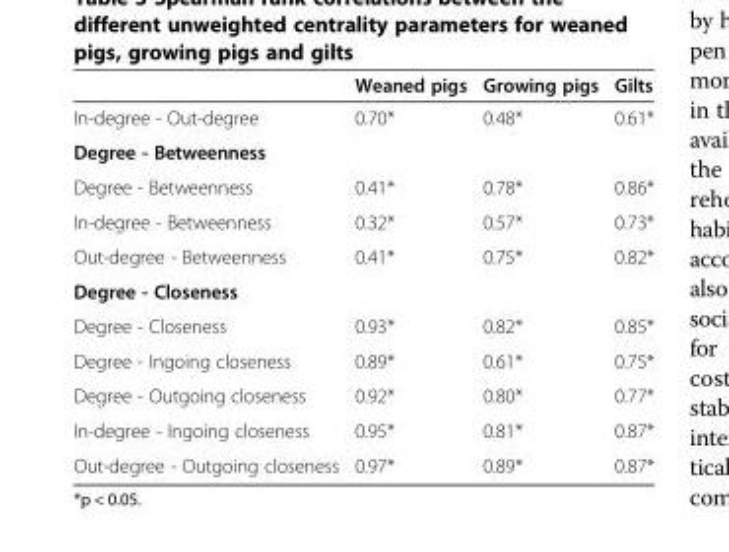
<table><thead><tr><td></td><td>Weaned pigs</td><td>Growing pigs</td><td>Gilts</td></tr></thead><tbody><tr><td>In-degree - Out-degree</td><td>0.70*</td><td>0.48*</td><td>0.61*</td></tr><tr><td colspan="4">Degree - Betweenness</td></tr><tr><td>Degree - Betweenness</td><td>0.41*</td><td>0.78*</td><td>0.86*</td></tr><tr><td>In-degree - Betweenness</td><td>0.32*</td><td>0.57*</td><td>0.73*</td></tr><tr><td>Out-degree - Betweenness</td><td>0.41*</td><td>0.75*</td><td>0.82*</td></tr><tr><td colspan="4">Degree - Closeness</td></tr><tr><td>Degree - Closeness</td><td>0.93*</td><td>0.82*</td><td>0.85*</td></tr><tr><td>Degree - Ingoing closeness</td><td>0.89*</td><td>0.61*</td><td>0.75*</td></tr><tr><td>Degree - Outgoing closeness</td><td>0.92*</td><td>0.80*</td><td>0.77*</td></tr><tr><td>In-degree - Ingoing closeness</td><td>0.95*</td><td>0.81*</td><td>0.87*</td></tr><tr><td>Out-degree - Outgoing closeness</td><td>0.97*</td><td>0.89*</td><td>0.87*</td></tr></tbody></table>